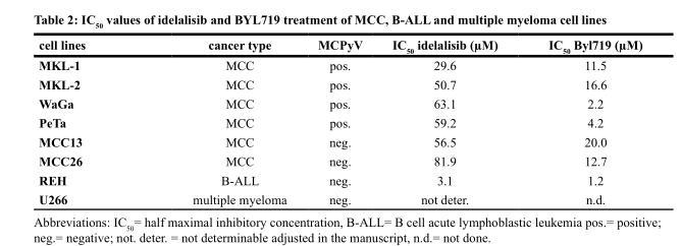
<table><thead><tr><td>cell lines</td><td>cancer type</td><td>MCPyV</td><td>IC<sub>50</sub> idelalisib (µM)</td><td>IC<sub>50</sub> Byl719 (µM)</td></tr></thead><tbody><tr><td>MKL-1</td><td>MCC</td><td>pos.</td><td>29.6</td><td>11.5</td></tr><tr><td>MKL-2</td><td>MCC</td><td>pos.</td><td>50.7</td><td>16.6</td></tr><tr><td>WaGa</td><td>MCC</td><td>pos.</td><td>63.1</td><td>2.2</td></tr><tr><td>PeTa</td><td>MCC</td><td>pos.</td><td>59.2</td><td>4.2</td></tr><tr><td>MCC13</td><td>MCC</td><td>neg.</td><td>56.5</td><td>20.0</td></tr><tr><td>MCC26</td><td>MCC</td><td>neg.</td><td>81.9</td><td>12.7</td></tr><tr><td>REH</td><td>B-ALL</td><td>neg.</td><td>3.1</td><td>1.2</td></tr><tr><td>U266</td><td>multiple myeloma</td><td>neg.</td><td>not deter.</td><td>n.d.</td></tr></tbody></table>